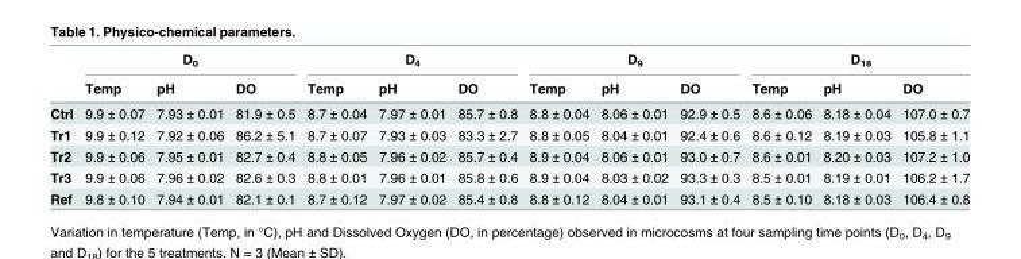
<table><thead><tr><td rowspan="2"></td><td colspan="3">D<sub>0</sub></td><td colspan="3">D<sub>4</sub></td><td colspan="3">D<sub>9</sub></td><td colspan="3">D<sub>18</sub></td></tr><tr><td>Temp</td><td>pH</td><td>DO</td><td>Temp</td><td>pH</td><td>DO</td><td>Temp</td><td>pH</td><td>DO</td><td>Temp</td><td>pH</td><td>DO</td></tr></thead><tbody><tr><td>Ctrl</td><td>9.9 ± 0.07</td><td>7.93 ± 0.01</td><td>81.9 ± 0.5</td><td>8.7 ± 0.04</td><td>7.97 ± 0.01</td><td>85.7 ± 0.8</td><td>8.8 ± 0.04</td><td>8.06 ± 0.01</td><td>92.9 ± 0.5</td><td>8.6 ± 0.06</td><td>8.18 ± 0.04</td><td>107.0 ± 0.7</td></tr><tr><td>Tr1</td><td>9.9 ± 0.12</td><td>7.92 ± 0.06</td><td>86.2 ± 5.1</td><td>8.7 ± 0.07</td><td>7.93 ± 0.03</td><td>83.3 ± 2.7</td><td>8.8 ± 0.05</td><td>8.04 ± 0.01</td><td>92.4 ± 0.6</td><td>8.6 ± 0.12</td><td>8.19 ± 0.03</td><td>105.8 ± 1.1</td></tr><tr><td>Tr2</td><td>9.9 ± 0.06</td><td>7.95 ± 0.01</td><td>82.7 ± 0.4</td><td>8.8 ± 0.05</td><td>7.96 ± 0.02</td><td>85.7 ± 0.4</td><td>8.9 ± 0.04</td><td>8.06 ± 0.01</td><td>93.0 ± 0.7</td><td>8.6 ± 0.01</td><td>8.20 ± 0.03</td><td>107.2 ± 1.0</td></tr><tr><td>Tr3</td><td>9.9 ± 0.06</td><td>7.96 ± 0.02</td><td>82.6 ± 0.3</td><td>8.8 ± 0.01</td><td>7.96 ± 0.01</td><td>85.8 ± 0.6</td><td>8.9 ± 0.04</td><td>8.03 ± 0.02</td><td>93.3 ± 0.3</td><td>8.5 ± 0.01</td><td>8.19 ± 0.01</td><td>106.2 ± 1.7</td></tr><tr><td>Ref</td><td>9.8 ± 0.10</td><td>7.94 ± 0.01</td><td>82.1 ± 0.1</td><td>8.7 ± 0.12</td><td>7.97 ± 0.02</td><td>85.4 ± 0.8</td><td>8.8 ± 0.12</td><td>8.04 ± 0.01</td><td>93.1 ± 0.4</td><td>8.5 ± 0.10</td><td>8.18 ± 0.03</td><td>106.4 ± 0.8</td></tr></tbody></table>